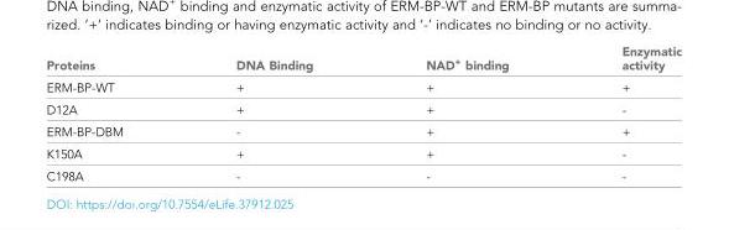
<table><thead><tr><td>Proteins</td><td>DNA Binding</td><td>NAD<sup>+</sup> binding</td><td>Enzymatic activity</td></tr></thead><tbody><tr><td>ERM-BP-WT</td><td>+</td><td>+</td><td>+</td></tr><tr><td>D12A</td><td>+</td><td>+</td><td>-</td></tr><tr><td>ERM-BP-DBM</td><td>-</td><td>+</td><td>+</td></tr><tr><td>K150A</td><td>+</td><td>+</td><td>-</td></tr><tr><td>C198A</td><td>-</td><td>-</td><td>-</td></tr></tbody></table>